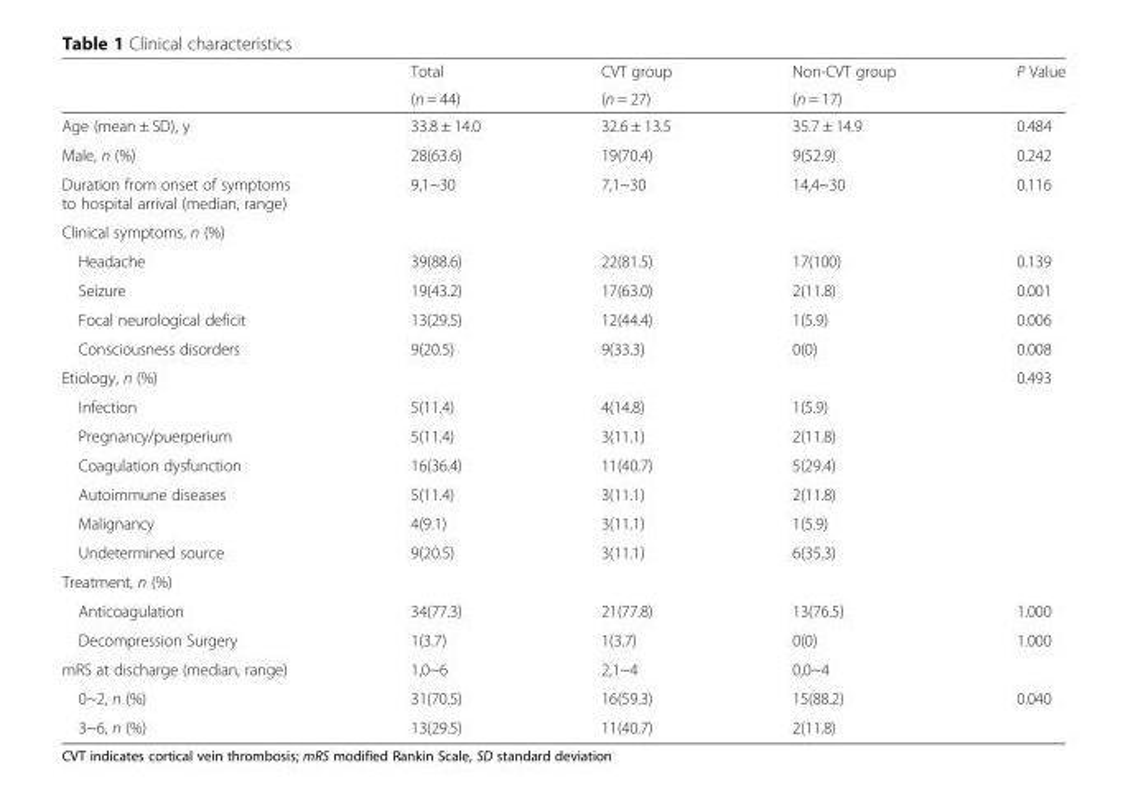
<table><thead><tr><td rowspan="2"></td><td rowspan="2">Total (n = 44)</td><td rowspan="2">CVT group (n = 27)</td><td rowspan="2">Non-CVT group (n = 17)</td><td rowspan="2">P Value</td></tr><tr></tr></thead><tbody><tr><td>Age (mean ± SD), y</td><td>33.8 ± 14.0</td><td>32.6 ± 13.5</td><td>35.7 ± 14.9</td><td>0.484</td></tr><tr><td>Male, n (%)</td><td>28(63.6)</td><td>19(70.4)</td><td>9(52.9)</td><td>0.242</td></tr><tr><td>Duration from onset of symptoms to hospital arrival (median, range)</td><td>9,1~30</td><td>7,1~30</td><td>14,4~30</td><td>0.116</td></tr><tr><td colspan="5">Clinical symptoms, n (%)</td></tr><tr><td>Headache</td><td>39(88.6)</td><td>22(81.5)</td><td>17(100)</td><td>0.139</td></tr><tr><td>Seizure</td><td>19(43.2)</td><td>17(63.0)</td><td>2(11.8)</td><td>0.001</td></tr><tr><td>Focal neurological deficit</td><td>13(29.5)</td><td>12(44.4)</td><td>1(5.9)</td><td>0.006</td></tr><tr><td>Consciousness disorders</td><td>9(20.5)</td><td>9(33.3)</td><td>0(0)</td><td>0.008</td></tr><tr><td colspan="4">Etiology, n (%)</td><td>0.493</td></tr><tr><td>Infection</td><td>5(11.4)</td><td>4(14.8)</td><td>1(5.9)</td><td></td></tr><tr><td>Pregnancy/puerperium</td><td>5(11.4)</td><td>3(11.1)</td><td>2(11.8)</td><td></td></tr><tr><td>Coagulation dysfunction</td><td>16(36.4)</td><td>11(40.7)</td><td>5(29.4)</td><td></td></tr><tr><td>Autoimmune diseases</td><td>5(11.4)</td><td>3(11.1)</td><td>2(11.8)</td><td></td></tr><tr><td>Malignancy</td><td>4(9.1)</td><td>3(11.1)</td><td>1(5.9)</td><td></td></tr><tr><td>Undetermined source</td><td>9(20.5)</td><td>3(11.1)</td><td>6(35.3)</td><td></td></tr><tr><td colspan="5">Treatment, n (%)</td></tr><tr><td>Anticoagulation</td><td>34(77.3)</td><td>21(77.8)</td><td>13(76.5)</td><td>1.000</td></tr><tr><td>Decompression Surgery</td><td>1(3.7)</td><td>1(3.7)</td><td>0(0)</td><td>1.000</td></tr><tr><td>mRS at discharge (median, range)</td><td>1,0~6</td><td>2,1~4</td><td>0,0~4</td><td></td></tr><tr><td>0~2, n (%)</td><td>31(70.5)</td><td>16(59.3)</td><td>15(88.2)</td><td>0.040</td></tr><tr><td>3~6, n (%)</td><td>13(29.5)</td><td>11(40.7)</td><td>2(11.8)</td><td></td></tr></tbody></table>